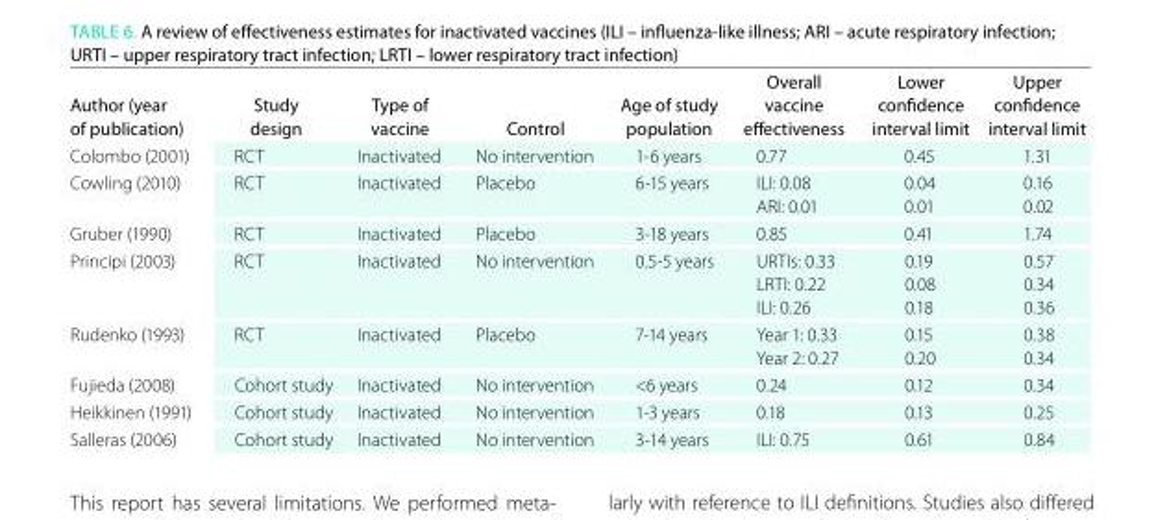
<table><thead><tr><td>Author (year of publication)</td><td>Study design</td><td>type of vaccine</td><td>Control</td><td>Age of study population</td><td>overall vaccine effectiveness</td><td>Lower confidence interval limit</td><td>upper confidence interval limit</td></tr></thead><tbody><tr><td>Colombo (2001)</td><td>RCT</td><td>Inactivated</td><td>No intervention</td><td>1-6 years</td><td>0.77</td><td>0.45</td><td>1.31</td></tr><tr><td>Cowling (2010)</td><td>RCT</td><td>Inactivated</td><td>Placebo</td><td>6-15 years</td><td>ILI: 0.08 ARI: 0.01</td><td>0.04 0.01</td><td>0.16 0.02</td></tr><tr><td>Gruber (1990)</td><td>RCT</td><td>Inactivated</td><td>Placebo</td><td>3-18 years</td><td>0.85</td><td>0.41</td><td>1.74</td></tr><tr><td>Principi (2003)</td><td>RCT</td><td>Inactivated</td><td>No intervention</td><td>0.5-5 years</td><td>URTIs: 0.33 LRTI: 0.22 ILI: 0.26</td><td>0.19 0.08 0.18</td><td>0.57 0.34 0.36</td></tr><tr><td>Rudenko (1993)</td><td>RCT</td><td>Inactivated</td><td>Placebo</td><td>7-14 years</td><td>Year 1: 0.33 Year 2: 0.27</td><td>0.15 0.20</td><td>0.38 0.34</td></tr><tr><td>Fujieda (2008)</td><td>Cohort study</td><td>Inactivated</td><td>No intervention</td><td>&lt;6 years</td><td>0.24</td><td>0.12</td><td>0.34</td></tr><tr><td>Heikkinen (1991)</td><td>Cohort study</td><td>Inactivated</td><td>No intervention</td><td>1-3 years</td><td>0.18</td><td>0.13</td><td>0.25</td></tr><tr><td>Salleras (2006)</td><td>Cohort study</td><td>Inactivated</td><td>No intervention</td><td>3-14 years</td><td>ILI: 0.75</td><td>0.61</td><td>0.84</td></tr></tbody></table>